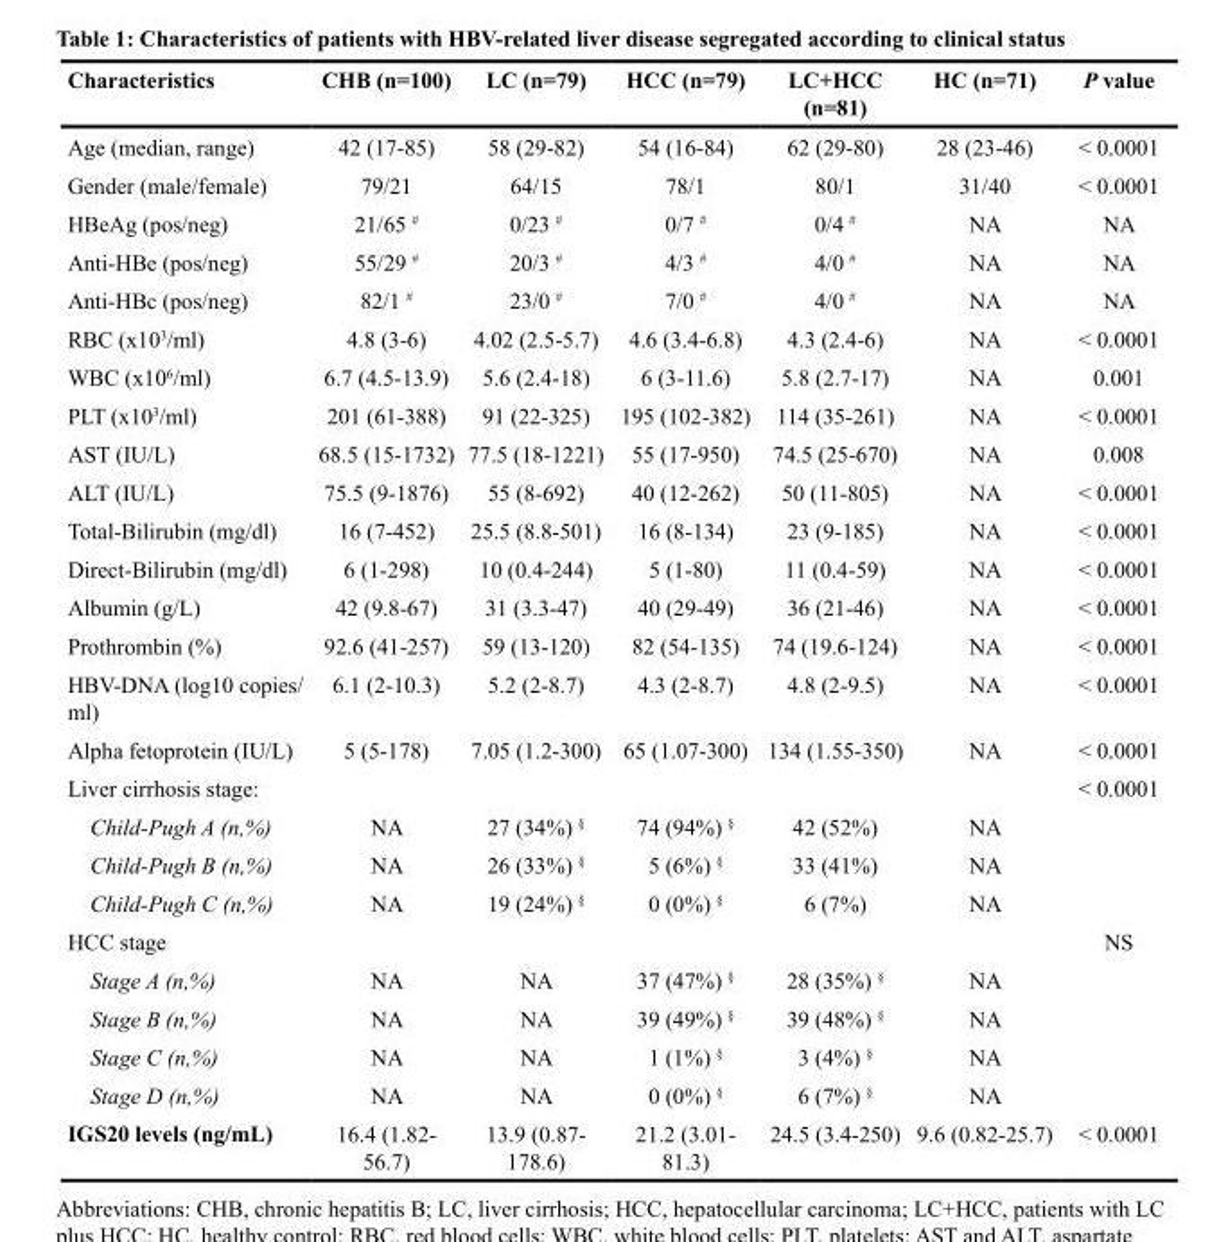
<table><thead><tr><td>Characteristics</td><td>CHB (n=100)</td><td>LC (n=79)</td><td>HCC (n=79)</td><td>LC+HCC (n=81)</td><td>HC (n=71)</td><td>P value</td></tr></thead><tbody><tr><td>Age (median, range)</td><td>42 (17-85)</td><td>58 (29-82)</td><td>54 (16-84)</td><td>62 (29-80)</td><td>28 (23-46)</td><td>&lt; 0.0001</td></tr><tr><td>Gender (male/female)</td><td>79/21</td><td>64/15</td><td>78/1</td><td>80/1</td><td>31/40</td><td>&lt; 0.0001</td></tr><tr><td>HBeAg (pos/neg)</td><td>21/65 <sup>#</sup></td><td>0/23 <sup>#</sup></td><td>0/7 <sup>#</sup></td><td>0/4 <sup>#</sup></td><td>NA</td><td>NA</td></tr><tr><td>Anti-HBe (pos/neg)</td><td>55/29 <sup>#</sup></td><td>20/3 <sup>#</sup></td><td>4/3 <sup>#</sup></td><td>4/0 <sup>#</sup></td><td>NA</td><td>NA</td></tr><tr><td>Anti-HBc (pos/neg)</td><td>82/1 <sup>#</sup></td><td>23/0 <sup>#</sup></td><td>7/0 <sup>#</sup></td><td>4/0 <sup>#</sup></td><td>NA</td><td>NA</td></tr><tr><td>RBC (x10<sup>3</sup>/ml)</td><td>4.8 (3-6)</td><td>4.02 (2.5-5.7)</td><td>4.6 (3.4-6.8)</td><td>4.3 (2.4-6)</td><td>NA</td><td>&lt; 0.0001</td></tr><tr><td>WBC (x10<sup>6</sup>/ml)</td><td>6.7 (4.5-13.9)</td><td>5.6 (2.4-18)</td><td>6 (3-11.6)</td><td>5.8 (2.7-17)</td><td>NA</td><td>0.001</td></tr><tr><td>PLT (x10<sup>3</sup>/ml)</td><td>201 (61-388)</td><td>91 (22-325)</td><td>195 (102-382)</td><td>114 (35-261)</td><td>NA</td><td>&lt; 0.0001</td></tr><tr><td>AST (IU/L)</td><td>68.5 (15-1732)</td><td>77.5 (18-1221)</td><td>55 (17-950)</td><td>74.5 (25-670)</td><td>NA</td><td>0.008</td></tr><tr><td>ALT (IU/L)</td><td>75.5 (9-1876)</td><td>55 (8-692)</td><td>40 (12-262)</td><td>50 (11-805)</td><td>NA</td><td>&lt; 0.0001</td></tr><tr><td>Total-Bilirubin (mg/dl)</td><td>16 (7-452)</td><td>25.5 (8.8-501)</td><td>16 (8-134)</td><td>23 (9-185)</td><td>NA</td><td>&lt; 0.0001</td></tr><tr><td>Direct-Bilirubin (mg/dl)</td><td>6 (1-298)</td><td>10 (0.4-244)</td><td>5 (1-80)</td><td>11 (0.4-59)</td><td>NA</td><td>&lt; 0.0001</td></tr><tr><td>Albumin (g/L)</td><td>42 (9.8-67)</td><td>31 (3.3-47)</td><td>40 (29-49)</td><td>36 (21-46)</td><td>NA</td><td>&lt; 0.0001</td></tr><tr><td>Prothrombin (%)</td><td>92.6 (41-257)</td><td>59 (13-120)</td><td>82 (54-135)</td><td>74 (19.6-124)</td><td>NA</td><td>&lt; 0.0001</td></tr><tr><td>HBV-DNA (log10 copies/ ml)</td><td>6.1 (2-10.3)</td><td>5.2 (2-8.7)</td><td>4.3 (2-8.7)</td><td>4.8 (2-9.5)</td><td>NA</td><td>&lt; 0.0001</td></tr><tr><td>Alpha fetoprotein (IU/L)</td><td>5 (5-178)</td><td>7.05 (1.2-300)</td><td>65 (1.07-300)</td><td>134 (1.55-350)</td><td>NA</td><td>&lt; 0.0001</td></tr><tr><td>Liver cirrhosis stage:</td><td></td><td></td><td></td><td></td><td></td><td>&lt; 0.0001</td></tr><tr><td>Child-Pugh A (n,%)</td><td>NA</td><td>27 (34%) <sup>§</sup></td><td>74 (94%) <sup>§</sup></td><td>42 (52%)</td><td>NA</td><td></td></tr><tr><td>Child-Pugh B (n,%)</td><td>NA</td><td>26 (33%) <sup>§</sup></td><td>5 (6%) <sup>§</sup></td><td>33 (41%)</td><td>NA</td><td></td></tr><tr><td>Child-Pugh C (n,%)</td><td>NA</td><td>19 (24%) <sup>§</sup></td><td>0 (0%) <sup>§</sup></td><td>6 (7%)</td><td>NA</td><td></td></tr><tr><td>HCC stage</td><td></td><td></td><td></td><td></td><td></td><td>NS</td></tr><tr><td>Stage A (n,%)</td><td>NA</td><td>NA</td><td>37 (47%) <sup>§</sup></td><td>28 (35%) <sup>§</sup></td><td>NA</td><td></td></tr><tr><td>Stage B (n,%)</td><td>NA</td><td>NA</td><td>39 (49%) <sup>§</sup></td><td>39 (48%) <sup>§</sup></td><td>NA</td><td></td></tr><tr><td>Stage C (n,%)</td><td>NA</td><td>NA</td><td>1 (1%) <sup>§</sup></td><td>3 (4%) <sup>§</sup></td><td>NA</td><td></td></tr><tr><td>Stage D (n,%)</td><td>NA</td><td>NA</td><td>0 (0%) <sup>§</sup></td><td>6 (7%) <sup>§</sup></td><td>NA</td><td></td></tr><tr><td>IGS20 levels (ng/mL)</td><td>16.4 (1.82- 56.7)</td><td>13.9 (0.87- 178.6)</td><td>21.2 (3.01- 81.3)</td><td>24.5 (3.4-250)</td><td>9.6 (0.82-25.7)</td><td>&lt; 0.0001</td></tr></tbody></table>